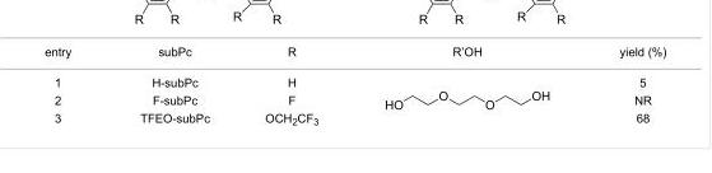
<table><tbody><tr><td>entry</td><td>subPc</td><td>R</td><td>R’OH</td><td>yield (%)</td></tr><tr><td>1</td><td>H-subPc</td><td>H</td><td rowspan="3"></td><td>5</td></tr><tr><td>2</td><td>F-subPc</td><td>F</td><td>NR</td></tr><tr><td>3</td><td>TFEO-subPc</td><td>OCH<sub>2</sub>CF<sub>3</sub></td><td>68</td></tr></tbody></table>